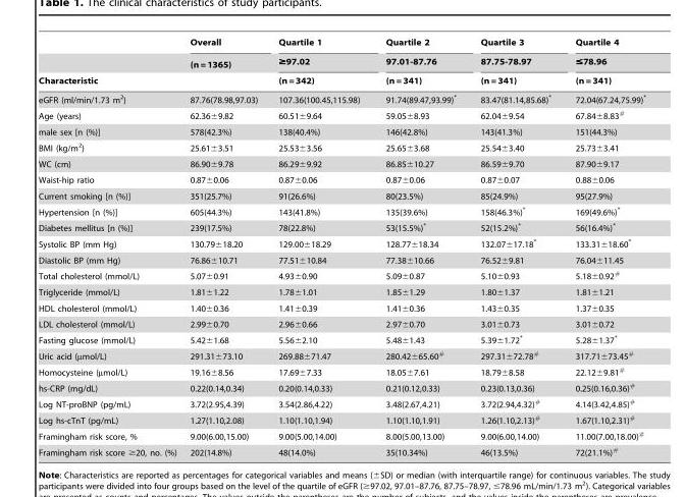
<table><thead><tr><td rowspan="3">Characteristic</td><td rowspan="3">Overall (n = 1365)</td><td rowspan="3">Quartile 1 ≥97.02 (n = 342)</td><td rowspan="3">Quartile 2 97.01-87.76 (n = 341)</td><td rowspan="3">Quartile 3 87.75-78.97 (n = 341)</td><td rowspan="3">Quartile 4 ≤78.96 (n = 341)</td></tr><tr></tr><tr></tr></thead><tbody><tr><td>eGFR (ml/min/1.73 m<sup>2</sup>)</td><td>87.76(78.98,97.03)</td><td>107.36(100.45,115.98)</td><td>91.74(89.47,93.99)*</td><td>83.47(81.14,85.68)*</td><td>72.04(67.24,75.99)*</td></tr><tr><td>Age (years)</td><td>62.36±9.82</td><td>60.51±9.64</td><td>59.05±8.93</td><td>62.04±9.54</td><td>67.84±8.83#</td></tr><tr><td>male sex [n (%)]</td><td>578(42.3%)</td><td>138(40.4%)</td><td>146(42.8%)</td><td>143(41.3%)</td><td>151(44.3%)</td></tr><tr><td>BMI (kg/m<sup>2</sup>)</td><td>25.61±3.51</td><td>25.53±3.56</td><td>25.65±3.68</td><td>25.54±3.40</td><td>25.73±3.41</td></tr><tr><td>WC (cm)</td><td>86.90±9.78</td><td>86.29±9.92</td><td>86.85±10.27</td><td>86.59±9.70</td><td>87.90±9.17</td></tr><tr><td>Waist-hip ratio</td><td>0.87±0.06</td><td>0.87±0.06</td><td>0.87±0.06</td><td>0.87±0.07</td><td>0.88±0.06</td></tr><tr><td>Current smoking [n (%)]</td><td>351(25.7%)</td><td>91(26.6%)</td><td>80(23.5%)</td><td>85(24.9%)</td><td>95(27.9%)</td></tr><tr><td>Hypertension [n (%)]</td><td>605(44.3%)</td><td>143(41.8%)</td><td>135(39.6%)</td><td>158(46.3%)*</td><td>169(49.6%)*</td></tr><tr><td>Diabetes mellitus [n (%)]</td><td>239(17.5%)</td><td>78(22.8%)</td><td>53(15.5%)*</td><td>52(15.2%)*</td><td>56(16.4%)*</td></tr><tr><td>Systolic BP (mm Hg)</td><td>130.79±18.20</td><td>129.00±18.29</td><td>128.77±18.34</td><td>132.07±17.18*</td><td>133.31±18.60*</td></tr><tr><td>Diastolic BP (mm Hg)</td><td>76.86±10.71</td><td>77.51±10.84</td><td>77.38±10.66</td><td>76.52±9.81</td><td>76.04±11.45</td></tr><tr><td>Total cholesterol (mmol/L)</td><td>5.07±0.91</td><td>4.93±0.90</td><td>5.09±0.87</td><td>5.10±0.93</td><td>5.18±0.92#</td></tr><tr><td>Triglyceride (mmol/L)</td><td>1.81±1.22</td><td>1.78±1.01</td><td>1.85±1.29</td><td>1.80±1.37</td><td>1.81±1.21</td></tr><tr><td>HDL cholesterol (mmol/L)</td><td>1.40±0.36</td><td>1.41±0.39</td><td>1.41±0.36</td><td>1.43±0.35</td><td>1.37±0.35</td></tr><tr><td>LDL cholesterol (mmol/L)</td><td>2.99±0.70</td><td>2.96±0.66</td><td>2.97±0.70</td><td>3.01±0.73</td><td>3.01±0.72</td></tr><tr><td>Fasting glucose (mmol/L)</td><td>5.42±1.68</td><td>5.56±2.10</td><td>5.48±1.43</td><td>5.39±1.72*</td><td>5.28±1.37*</td></tr><tr><td>Uric acid (µmol/L)</td><td>291.31±73.10</td><td>269.88±71.47</td><td>280.42±65.60#</td><td>297.31±72.78#</td><td>317.71±73.45#</td></tr><tr><td>Homocysteine (µmol/L)</td><td>19.16±8.56</td><td>17.69±7.33</td><td>18.05±7.61</td><td>18.79±8.58</td><td>22.12±9.81#</td></tr><tr><td>hs-CRP (mg/dL)</td><td>0.22(0.14,0.34)</td><td>0.20(0.14,0.33)</td><td>0.21(0.12,0.33)</td><td>0.23(0.13,0.36)</td><td>0.25(0.16,0.36)#</td></tr><tr><td>Log NT-proBNP (pg/mL)</td><td>3.72(2.95,4.39)</td><td>3.54(2.86,4.22)</td><td>3.48(2.67,4.21)</td><td>3.72(2.94,4.32)#</td><td>4.14(3.42,4.85)#</td></tr><tr><td>Log hs-cTnT (pg/mL)</td><td>1.27(1.10,2.08)</td><td>1.10(1.10,1.94)</td><td>1.10(1.10,1.91)</td><td>1.26(1.10,2.13)#</td><td>1.67(1.10,2.31)#</td></tr><tr><td>Framingham risk score, %</td><td>9.00(6.00,15.00)</td><td>9.00(5.00,14.00)</td><td>8.00(5.00,13.00)</td><td>9.00(6.00,14.00)</td><td>11.00(7.00,18.00)#</td></tr><tr><td>Framingham risk score ≥20, no. (%)</td><td>202(14.8%)</td><td>48(14.0%)</td><td>35(10.34%)</td><td>46(13.5%)</td><td>72(21.1%)#</td></tr></tbody></table>